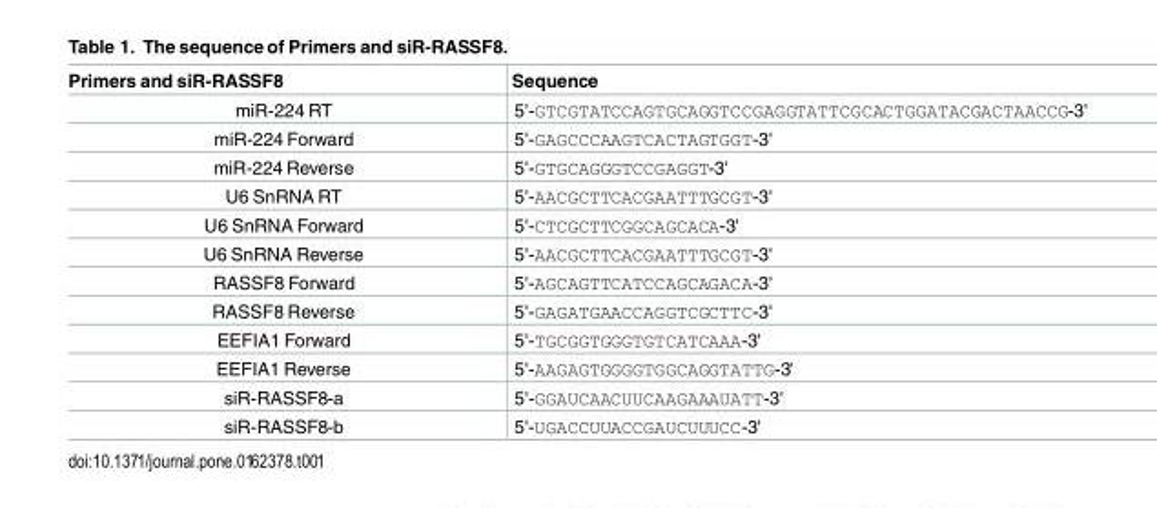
<table><thead><tr><td>Primers and siR-RASSF8</td><td>Sequence</td></tr></thead><tbody><tr><td>miR-224 RT</td><td>5&#x27;-GTCGTATCCAGTGCAGGTCCGAGGTATTCGCACTGGATACGACTAACCG-3&#x27;</td></tr><tr><td>miR-224 Forward</td><td>5&#x27;-GAGCCCAAGTCACTAGTGGT-3&#x27;</td></tr><tr><td>miR-224 Reverse</td><td>5&#x27;-GTGCAGGGTCCGAGGT-3&#x27;</td></tr><tr><td>U6 SnRNA RT</td><td>5&#x27;-AACGCTTCACGAATTTGCGT-3&#x27;</td></tr><tr><td>U6 SnRNA Forward</td><td>5&#x27;-CTCGCTTCGGCAGCACA-3&#x27;</td></tr><tr><td>U6 SnRNA Reverse</td><td>5&#x27;-AACGCTTCACGAATTTGCGT-3&#x27;</td></tr><tr><td>RASSF8 Forward</td><td>5&#x27;-AGCAGTTCATCCAGCAGACA-3&#x27;</td></tr><tr><td>RASSF8 Reverse</td><td>5&#x27;-GAGATGAACCAGGTCGCTTC-3&#x27;</td></tr><tr><td>EEFIA1 Forward</td><td>5&#x27;-TGCGGTGGGTGTCATCAAA-3&#x27;</td></tr><tr><td>EEFIA1 Reverse</td><td>5&#x27;-AAGAGTGGGGTGGCAGGTATTG-3&#x27;</td></tr><tr><td>siR-RASSF8-a</td><td>5&#x27;-GGAUCAACUUCAAGAAAUATT-3&#x27;</td></tr><tr><td>siR-RASSF8-b</td><td>5&#x27;-UGACCUUACCGAUCUUUCC-3&#x27;</td></tr></tbody></table>